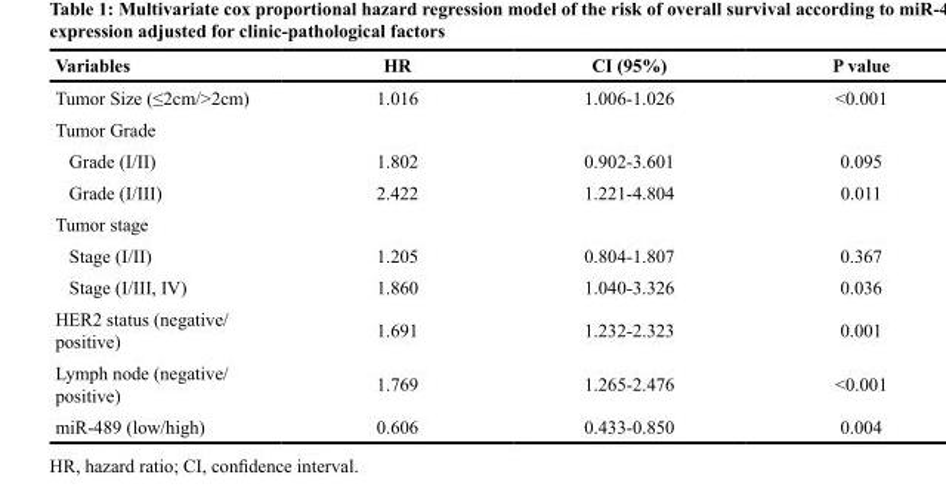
<table><thead><tr><td>Variables</td><td>HR</td><td>CI (95%)</td><td>P value</td></tr></thead><tbody><tr><td>Tumor Size (≤2cm/&gt;2cm)</td><td>1.016</td><td>1.006-1.026</td><td>&lt;0.001</td></tr><tr><td colspan="4">Tumor Grade</td></tr><tr><td>Grade (I/II)</td><td>1.802</td><td>0.902-3.601</td><td>0.095</td></tr><tr><td>Grade (I/III)</td><td>2.422</td><td>1.221-4.804</td><td>0.011</td></tr><tr><td colspan="4">Tumor stage</td></tr><tr><td>Stage (I/II)</td><td>1.205</td><td>0.804-1.807</td><td>0.367</td></tr><tr><td>Stage (I/III, IV)</td><td>1.860</td><td>1.040-3.326</td><td>0.036</td></tr><tr><td>HER2 status (negative/ positive)</td><td>1.691</td><td>1.232-2.323</td><td>0.001</td></tr><tr><td>Lymph node (negative/ positive)</td><td>1.769</td><td>1.265-2.476</td><td>&lt;0.001</td></tr><tr><td>miR-489 (low/high)</td><td>0.606</td><td>0.433-0.850</td><td>0.004</td></tr></tbody></table>